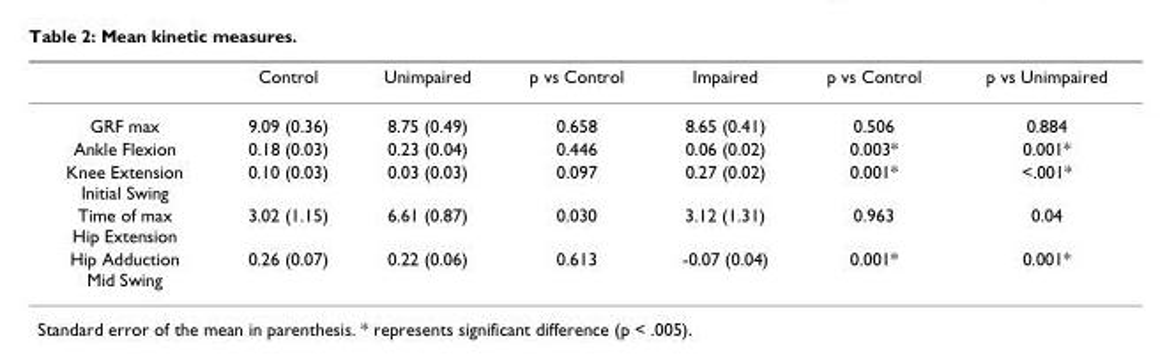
<table><thead><tr><td></td><td>Control</td><td>Unimpaired</td><td>p vs Control</td><td>Impaired</td><td>p vs Control</td><td>p vs Unimpaired</td></tr></thead><tbody><tr><td>GRF max</td><td>9.09 (0.36)</td><td>8.75 (0.49)</td><td>0.658</td><td>8.65 (0.41)</td><td>0.506</td><td>0.884</td></tr><tr><td>Ankle Flexion</td><td>0.18 (0.03)</td><td>0.23 (0.04)</td><td>0.446</td><td>0.06 (0.02)</td><td>0.003*</td><td>0.001*</td></tr><tr><td>Knee Extension Initial Swing</td><td>0.10 (0.03)</td><td>0.03 (0.03)</td><td>0.097</td><td>0.27 (0.02)</td><td>0.001*</td><td>&lt;.001*</td></tr><tr><td>Time of max Hip Extension</td><td>3.02 (1.15)</td><td>6.61 (0.87)</td><td>0.030</td><td>3.12 (1.31)</td><td>0.963</td><td>0.04</td></tr><tr><td>Hip Adduction Mid Swing</td><td>0.26 (0.07)</td><td>0.22 (0.06)</td><td>0.613</td><td>-0.07 (0.04)</td><td>0.001*</td><td>0.001*</td></tr></tbody></table>